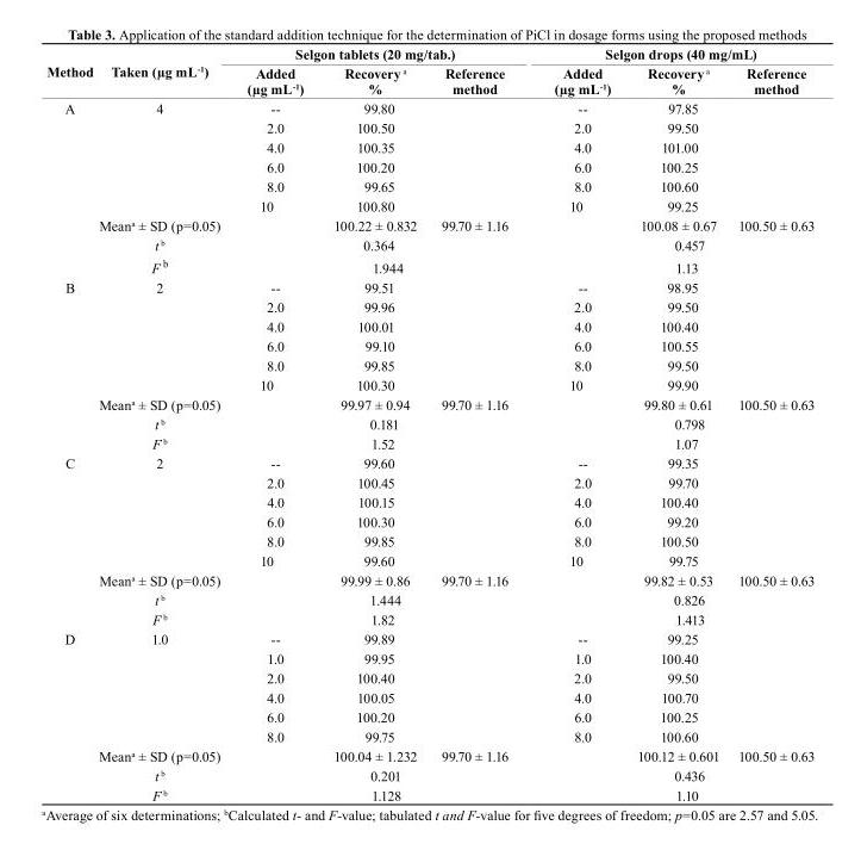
<table><thead><tr><td rowspan="2">Method</td><td rowspan="2">taken (µg mL<sup>-1</sup>)</td><td colspan="3">selgon tablets (20 mg/tab.)</td><td colspan="3">selgon drops (40 mg/mL)</td></tr><tr><td>Added (µg mL<sup>-1</sup>)</td><td>recovery <sup>a</sup> %</td><td>reference method</td><td>Added (µg mL<sup>-1</sup>)</td><td>recovery <sup>a</sup> %</td><td>reference method</td></tr></thead><tbody><tr><td rowspan="9">A</td><td>4</td><td>--</td><td>99.80</td><td></td><td>--</td><td>97.85</td><td></td></tr><tr><td></td><td>2.0</td><td>100.50</td><td></td><td>2.0</td><td>99.50</td><td></td></tr><tr><td></td><td>4.0</td><td>100.35</td><td></td><td>4.0</td><td>101.00</td><td></td></tr><tr><td></td><td>6.0</td><td>100.20</td><td></td><td>6.0</td><td>100.25</td><td></td></tr><tr><td></td><td>8.0</td><td>99.65</td><td></td><td>8.0</td><td>100.60</td><td></td></tr><tr><td></td><td>10</td><td>100.80</td><td></td><td>10</td><td>99.25</td><td></td></tr><tr><td>Mean<sup>a</sup> ± SD (p=0.05)</td><td></td><td>100.22 ± 0.832</td><td>99.70 ± 1.16</td><td></td><td>100.08 ± 0.67</td><td>100.50 ± 0.63</td></tr><tr><td>t <sup>b</sup></td><td></td><td>0.364</td><td></td><td></td><td>0.457</td><td></td></tr><tr><td>F <sup>b</sup></td><td></td><td>1.944</td><td></td><td></td><td>1.13</td><td></td></tr><tr><td rowspan="9">B</td><td>2</td><td>--</td><td>99.51</td><td></td><td>--</td><td>98.95</td><td></td></tr><tr><td></td><td>2.0</td><td>99.96</td><td></td><td>2.0</td><td>99.50</td><td></td></tr><tr><td></td><td>4.0</td><td>100.01</td><td></td><td>4.0</td><td>100.40</td><td></td></tr><tr><td></td><td>6.0</td><td>99.10</td><td></td><td>6.0</td><td>100.55</td><td></td></tr><tr><td></td><td>8.0</td><td>99.85</td><td></td><td>8.0</td><td>99.50</td><td></td></tr><tr><td></td><td>10</td><td>100.30</td><td></td><td>10</td><td>99.90</td><td></td></tr><tr><td>Mean<sup>a</sup> ± SD (p=0.05)</td><td></td><td>99.97 ± 0.94</td><td>99.70 ± 1.16</td><td></td><td>99.80 ± 0.61</td><td>100.50 ± 0.63</td></tr><tr><td>t <sup>b</sup></td><td></td><td>0.181</td><td></td><td></td><td>0.798</td><td></td></tr><tr><td>F <sup>b</sup></td><td></td><td>1.52</td><td></td><td></td><td>1.07</td><td></td></tr><tr><td rowspan="9">C</td><td>2</td><td>--</td><td>99.60</td><td></td><td>--</td><td>99.35</td><td></td></tr><tr><td></td><td>2.0</td><td>100.45</td><td></td><td>2.0</td><td>99.70</td><td></td></tr><tr><td></td><td>4.0</td><td>100.15</td><td></td><td>4.0</td><td>100.40</td><td></td></tr><tr><td></td><td>6.0</td><td>100.30</td><td></td><td>6.0</td><td>99.20</td><td></td></tr><tr><td></td><td>8.0</td><td>99.85</td><td></td><td>8.0</td><td>100.50</td><td></td></tr><tr><td></td><td>10</td><td>99.60</td><td></td><td>10</td><td>99.75</td><td></td></tr><tr><td>Mean<sup>a</sup> ± SD (p=0.05)</td><td></td><td>99.99 ± 0.86</td><td>99.70 ± 1.16</td><td></td><td>99.82 ± 0.53</td><td>100.50 ± 0.63</td></tr><tr><td>t <sup>b</sup></td><td></td><td>1.444</td><td></td><td></td><td>0.826</td><td></td></tr><tr><td>F <sup>b</sup></td><td></td><td>1.82</td><td></td><td></td><td>1.413</td><td></td></tr><tr><td rowspan="9">D</td><td>1.0</td><td>--</td><td>99.89</td><td></td><td>--</td><td>99.25</td><td></td></tr><tr><td></td><td>1.0</td><td>99.95</td><td></td><td>1.0</td><td>100.40</td><td></td></tr><tr><td></td><td>2.0</td><td>100.40</td><td></td><td>2.0</td><td>99.50</td><td></td></tr><tr><td></td><td>4.0</td><td>100.05</td><td></td><td>4.0</td><td>100.70</td><td></td></tr><tr><td></td><td>6.0</td><td>100.20</td><td></td><td>6.0</td><td>100.25</td><td></td></tr><tr><td></td><td>8.0</td><td>99.75</td><td></td><td>8.0</td><td>100.60</td><td></td></tr><tr><td>Mean<sup>a</sup> ± SD (p=0.05)</td><td></td><td>100.04 ± 1.232</td><td>99.70 ± 1.16</td><td></td><td>100.12 ± 0.601</td><td>100.50 ± 0.63</td></tr><tr><td>t <sup>b</sup></td><td></td><td>0.201</td><td></td><td></td><td>0.436</td><td></td></tr><tr><td>F <sup>b</sup></td><td></td><td>1.128</td><td></td><td></td><td>1.10</td><td></td></tr></tbody></table>